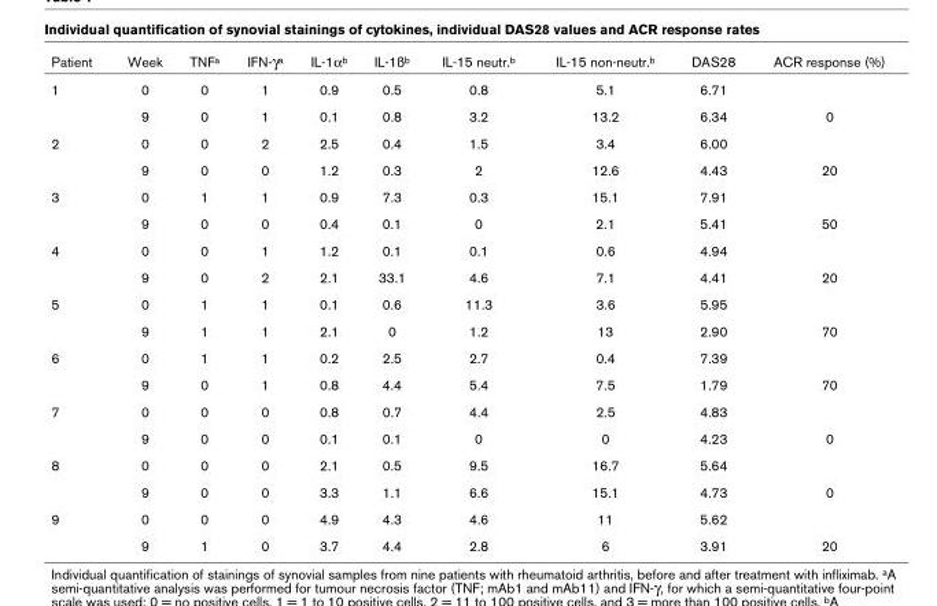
<table><thead><tr><td>Patient</td><td>Week</td><td>TNFa</td><td>IFN-γa</td><td>IL-1αb</td><td>IL-1ßb</td><td>IL-15 neutr.b</td><td>IL-15 non-neutr.b</td><td>DAS28</td><td>ACR response (%)</td></tr></thead><tbody><tr><td rowspan="2">1</td><td>0</td><td>0</td><td>1</td><td>0.9</td><td>0.5</td><td>0.8</td><td>5.1</td><td>6.71</td><td></td></tr><tr><td>9</td><td>0</td><td>1</td><td>0.1</td><td>0.8</td><td>3.2</td><td>13.2</td><td>6.34</td><td>0</td></tr><tr><td rowspan="2">2</td><td>0</td><td>0</td><td>2</td><td>2.5</td><td>0.4</td><td>1.5</td><td>3.4</td><td>6.00</td><td></td></tr><tr><td>9</td><td>0</td><td>0</td><td>1.2</td><td>0.3</td><td>2</td><td>12.6</td><td>4.43</td><td>20</td></tr><tr><td rowspan="2">3</td><td>0</td><td>1</td><td>1</td><td>0.9</td><td>7.3</td><td>0.3</td><td>15.1</td><td>7.91</td><td></td></tr><tr><td>9</td><td>0</td><td>0</td><td>0.4</td><td>0.1</td><td>0</td><td>2.1</td><td>5.41</td><td>50</td></tr><tr><td rowspan="2">4</td><td>0</td><td>0</td><td>1</td><td>1.2</td><td>0.1</td><td>0.1</td><td>0.6</td><td>4.94</td><td></td></tr><tr><td>9</td><td>0</td><td>2</td><td>2.1</td><td>33.1</td><td>4.6</td><td>7.1</td><td>4.41</td><td>20</td></tr><tr><td rowspan="2">5</td><td>0</td><td>1</td><td>1</td><td>0.1</td><td>0.6</td><td>11.3</td><td>3.6</td><td>5.95</td><td></td></tr><tr><td>9</td><td>1</td><td>1</td><td>2.1</td><td>0</td><td>1.2</td><td>13</td><td>2.90</td><td>70</td></tr><tr><td rowspan="2">6</td><td>0</td><td>1</td><td>1</td><td>0.2</td><td>2.5</td><td>2.7</td><td>0.4</td><td>7.39</td><td></td></tr><tr><td>9</td><td>0</td><td>1</td><td>0.8</td><td>4.4</td><td>5.4</td><td>7.5</td><td>1.79</td><td>70</td></tr><tr><td rowspan="2">7</td><td>0</td><td>0</td><td>0</td><td>0.8</td><td>0.7</td><td>4.4</td><td>2.5</td><td>4.83</td><td></td></tr><tr><td>9</td><td>0</td><td>0</td><td>0.1</td><td>0.1</td><td>0</td><td>0</td><td>4.23</td><td>0</td></tr><tr><td rowspan="2">8</td><td>0</td><td>0</td><td>0</td><td>2.1</td><td>0.5</td><td>9.5</td><td>16.7</td><td>5.64</td><td></td></tr><tr><td>9</td><td>0</td><td>0</td><td>3.3</td><td>1.1</td><td>6.6</td><td>15.1</td><td>4.73</td><td>0</td></tr><tr><td rowspan="2">9</td><td>0</td><td>0</td><td>0</td><td>4.9</td><td>4.3</td><td>4.6</td><td>11</td><td>5.62</td><td></td></tr><tr><td>9</td><td>1</td><td>0</td><td>3.7</td><td>4.4</td><td>2.8</td><td>6</td><td>3.91</td><td>20</td></tr></tbody></table>